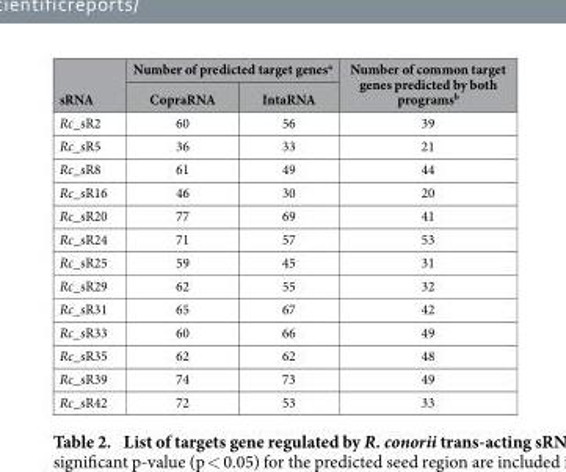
<table><thead><tr><td rowspan="2">sRNA</td><td colspan="2">Number of predicted target genes<sup>a</sup></td><td rowspan="2">Number of common target genes predicted by both programs<sup>b</sup></td></tr><tr><td>CopraRNA</td><td>IntaRNA</td></tr></thead><tbody><tr><td>Rc_sR2</td><td>60</td><td>56</td><td>39</td></tr><tr><td>Rc_sR5</td><td>36</td><td>33</td><td>21</td></tr><tr><td>Rc_sR8</td><td>61</td><td>49</td><td>44</td></tr><tr><td>Rc_sR16</td><td>46</td><td>30</td><td>20</td></tr><tr><td>Rc_sR20</td><td>77</td><td>69</td><td>41</td></tr><tr><td>Rc_sR24</td><td>71</td><td>57</td><td>53</td></tr><tr><td>Rc_sR25</td><td>59</td><td>45</td><td>31</td></tr><tr><td>Rc_sR29</td><td>62</td><td>55</td><td>32</td></tr><tr><td>Rc_sR31</td><td>65</td><td>67</td><td>42</td></tr><tr><td>Rc_sR33</td><td>60</td><td>66</td><td>49</td></tr><tr><td>Rc_sR35</td><td>62</td><td>62</td><td>48</td></tr><tr><td>Rc_sR39</td><td>74</td><td>73</td><td>49</td></tr><tr><td>Rc_sR42</td><td>72</td><td>53</td><td>33</td></tr></tbody></table>